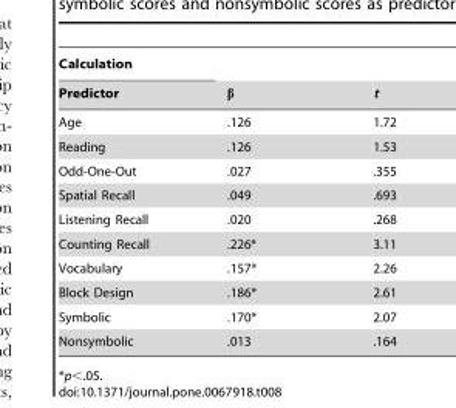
<table><thead><tr><td rowspan="2">Calculation Predictor</td><td rowspan="2">β</td><td rowspan="2">t</td></tr><tr></tr></thead><tbody><tr><td>Age</td><td>.126</td><td>1.72</td></tr><tr><td>Reading</td><td>.126</td><td>1.53</td></tr><tr><td>Odd-One-Out</td><td>.027</td><td>.355</td></tr><tr><td>Spatial Recall</td><td>.049</td><td>.693</td></tr><tr><td>Listening Recall</td><td>.020</td><td>.268</td></tr><tr><td>Counting Recall</td><td>.226*</td><td>3.11</td></tr><tr><td>Vocabulary</td><td>.157*</td><td>2.26</td></tr><tr><td>Block Design</td><td>.186*</td><td>2.61</td></tr><tr><td>Symbolic</td><td>.170*</td><td>2.07</td></tr><tr><td>Nonsymbolic</td><td>.013</td><td>.164</td></tr></tbody></table>